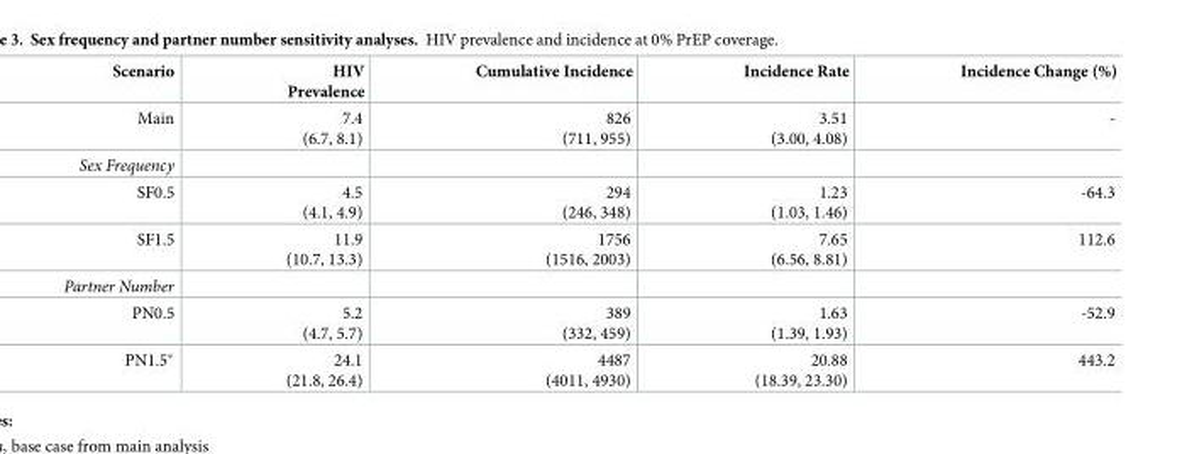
<table><thead><tr><td>Scenario</td><td>HIV Prevalence</td><td>Cumulative Incidence</td><td>Incidence Rate</td><td>Incidence Change (%)</td></tr></thead><tbody><tr><td>Main</td><td>7.4 (6.7, 8.1)</td><td>826 (711, 955)</td><td>3.51 (3.00, 4.08)</td><td>-</td></tr><tr><td colspan="5">Sex Frequency</td></tr><tr><td>SF0.5</td><td>4.5 (4.1, 4.9)</td><td>294 (246, 348)</td><td>1.23 (1.03, 1.46)</td><td>-64.3</td></tr><tr><td>SF1.5</td><td>11.9 (10.7, 13.3)</td><td>1756 (1516, 2003)</td><td>7.65 (6.56, 8.81)</td><td>112.6</td></tr><tr><td colspan="5">Partner Number</td></tr><tr><td>PN0.5</td><td>5.2 (4.7, 5.7)</td><td>389 (332, 459)</td><td>1.63 (1.39, 1.93)</td><td>-52.9</td></tr><tr><td>PN1.5*</td><td>24.1 (21.8, 26.4)</td><td>4487 (4011, 4930)</td><td>20.88 (18.39, 23.30)</td><td>443.2</td></tr></tbody></table>